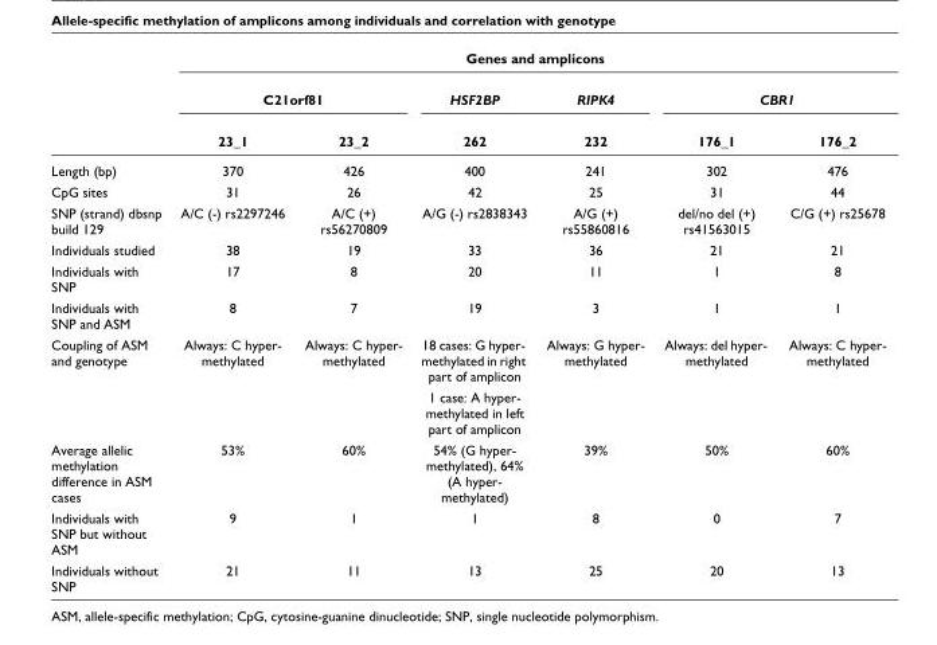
<table><thead><tr><td rowspan="3"></td><td colspan="6">Genes and amplicons</td></tr><tr><td colspan="2">C21orf81</td><td rowspan="2">HSF2BP 262</td><td rowspan="2">RIPK4 232</td><td colspan="2">CBR1</td></tr><tr><td>23_1</td><td>23_2</td><td>176_1</td><td>176_2</td></tr></thead><tbody><tr><td>Length (bp)</td><td>370</td><td>426</td><td>400</td><td>241</td><td>302</td><td>476</td></tr><tr><td>CpG sites</td><td>31</td><td>26</td><td>42</td><td>25</td><td>31</td><td>44</td></tr><tr><td>SNP (strand) dbsnp build 129</td><td>A/C (-) rs2297246</td><td>A/C (+) rs56270809</td><td>A/G (-) rs2838343</td><td>A/G (+) rs55860816</td><td>del/no del (+) rs41563015</td><td>C/G (+) rs25678</td></tr><tr><td>Individuals studied</td><td>38</td><td>19</td><td>33</td><td>36</td><td>21</td><td>21</td></tr><tr><td>Individuals with SNP</td><td>17</td><td>8</td><td>20</td><td>11</td><td>1</td><td>8</td></tr><tr><td>Individuals with SNP and ASM</td><td>8</td><td>7</td><td>19</td><td>3</td><td>1</td><td>1</td></tr><tr><td rowspan="2">Coupling of ASM and genotype</td><td>Always: C hyper- methylated</td><td>Always: C hyper- methylated</td><td>18 cases: G hyper- methylated in right part of amplicon</td><td>Always: G hyper- methylated</td><td>Always: del hyper- methylated</td><td>Always: C hyper- methylated</td></tr><tr><td></td><td></td><td>1 case: A hyper- methylated in left part of amplicon</td><td></td><td></td><td></td></tr><tr><td>Average allelic methylation difference in ASM cases</td><td>53%</td><td>60%</td><td>54% (G hyper- methylated), 64% (A hyper- methylated)</td><td>39%</td><td>50%</td><td>60%</td></tr><tr><td>Individuals with SNP but without ASM</td><td>9</td><td>1</td><td>1</td><td>8</td><td>0</td><td>7</td></tr><tr><td>Individuals without SNP</td><td>21</td><td>11</td><td>13</td><td>25</td><td>20</td><td>13</td></tr></tbody></table>